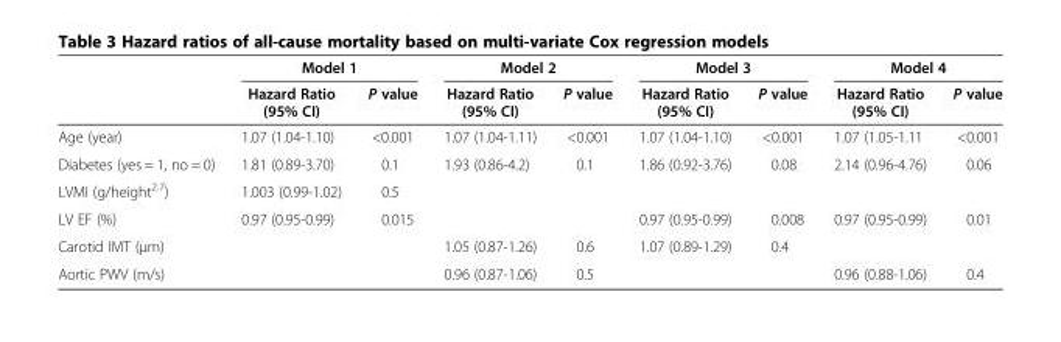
<table><thead><tr><td rowspan="2"></td><td colspan="2">Model 1</td><td colspan="2">Model 2</td><td colspan="2">Model 3</td><td colspan="2">Model 4</td></tr><tr><td>Hazard Ratio (95% CI)</td><td>P value</td><td>Hazard Ratio (95% CI)</td><td>P value</td><td>Hazard Ratio (95% CI)</td><td>P value</td><td>Hazard Ratio (95% CI)</td><td>P value</td></tr></thead><tbody><tr><td>Age (year)</td><td>1.07 (1.04-1.10)</td><td>&lt;0.001</td><td>1.07 (1.04-1.11)</td><td>&lt;0.001</td><td>1.07 (1.04-1.10)</td><td>&lt;0.001</td><td>1.07 (1.05-1.11</td><td>&lt;0.001</td></tr><tr><td>Diabetes (yes = 1, no = 0)</td><td>1.81 (0.89-3.70)</td><td>0.1</td><td>1.93 (0.86-4.2)</td><td>0.1</td><td>1.86 (0.92-3.76)</td><td>0.08</td><td>2.14 (0.96-4.76)</td><td>0.06</td></tr><tr><td>LVMI (g/height<sup>2.7</sup>)</td><td>1.003 (0.99-1.02)</td><td>0.5</td><td></td><td></td><td></td><td></td><td></td><td></td></tr><tr><td>LV EF (%)</td><td>0.97 (0.95-0.99)</td><td>0.015</td><td></td><td></td><td>0.97 (0.95-0.99)</td><td>0.008</td><td>0.97 (0.95-0.99)</td><td>0.01</td></tr><tr><td>Carotid IMT (μm)</td><td></td><td></td><td>1.05 (0.87-1.26)</td><td>0.6</td><td>1.07 (0.89-1.29)</td><td>0.4</td><td></td><td></td></tr><tr><td>Aortic PWV (m/s)</td><td></td><td></td><td>0.96 (0.87-1.06)</td><td>0.5</td><td></td><td></td><td>0.96 (0.88-1.06)</td><td>0.4</td></tr></tbody></table>